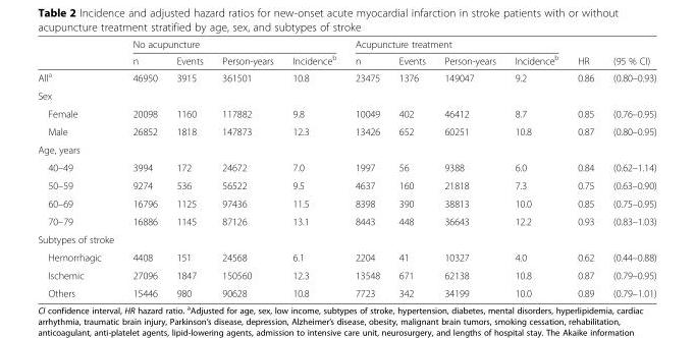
<table><thead><tr><td rowspan="2"></td><td colspan="4">No acupuncture</td><td colspan="4">Acupuncture treatment</td><td rowspan="2">HR</td><td rowspan="2">(95 % CI)</td></tr><tr><td>n</td><td>Events</td><td>Person-years</td><td>Incidence<sup>b</sup></td><td>n</td><td>Events</td><td>Person-years</td><td>Incidence<sup>b</sup></td></tr></thead><tbody><tr><td>All<sup>a</sup></td><td>46950</td><td>3915</td><td>361501</td><td>10.8</td><td>23475</td><td>1376</td><td>149047</td><td>9.2</td><td>0.86</td><td>(0.80–0.93)</td></tr><tr><td colspan="11">Sex</td></tr><tr><td>Female</td><td>20098</td><td>1160</td><td>117882</td><td>9.8</td><td>10049</td><td>402</td><td>46412</td><td>8.7</td><td>0.85</td><td>(0.76–0.95)</td></tr><tr><td>Male</td><td>26852</td><td>1818</td><td>147873</td><td>12.3</td><td>13426</td><td>652</td><td>60251</td><td>10.8</td><td>0.87</td><td>(0.80–0.95)</td></tr><tr><td colspan="11">Age, years</td></tr><tr><td>40–49</td><td>3994</td><td>172</td><td>24672</td><td>7.0</td><td>1997</td><td>56</td><td>9388</td><td>6.0</td><td>0.84</td><td>(0.62–1.14)</td></tr><tr><td>50–59</td><td>9274</td><td>536</td><td>56522</td><td>9.5</td><td>4637</td><td>160</td><td>21818</td><td>7.3</td><td>0.75</td><td>(0.63–0.90)</td></tr><tr><td>60–69</td><td>16796</td><td>1125</td><td>97436</td><td>11.5</td><td>8398</td><td>390</td><td>38813</td><td>10.0</td><td>0.85</td><td>(0.75–0.95)</td></tr><tr><td>70–79</td><td>16886</td><td>1145</td><td>87126</td><td>13.1</td><td>8443</td><td>448</td><td>36643</td><td>12.2</td><td>0.93</td><td>(0.83–1.03)</td></tr><tr><td colspan="11">Subtypes of stroke</td></tr><tr><td>Hemorrhagic</td><td>4408</td><td>151</td><td>24568</td><td>6.1</td><td>2204</td><td>41</td><td>10327</td><td>4.0</td><td>0.62</td><td>(0.44–0.88)</td></tr><tr><td>Ischemic</td><td>27096</td><td>1847</td><td>150560</td><td>12.3</td><td>13548</td><td>671</td><td>62138</td><td>10.8</td><td>0.87</td><td>(0.79–0.95)</td></tr><tr><td>Others</td><td>15446</td><td>980</td><td>90628</td><td>10.8</td><td>7723</td><td>342</td><td>34199</td><td>10.0</td><td>0.89</td><td>(0.79–1.01)</td></tr></tbody></table>